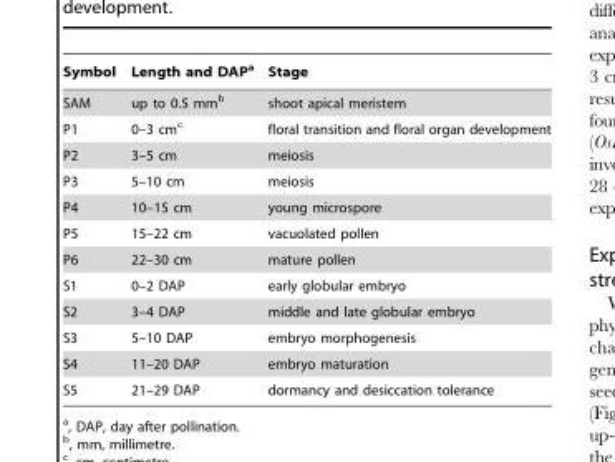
<table><thead><tr><td>Symbol</td><td>Length and DAP<sup>a</sup></td><td>Stage</td></tr></thead><tbody><tr><td>SAM</td><td>up to 0.5 mm<sup>b</sup></td><td>shoot apical meristem</td></tr><tr><td>P1</td><td>0–3 cm<sup>c</sup></td><td>floral transition and floral organ development</td></tr><tr><td>P2</td><td>3–5 cm</td><td>meiosis</td></tr><tr><td>P3</td><td>5–10 cm</td><td>meiosis</td></tr><tr><td>P4</td><td>10–15 cm</td><td>young microspore</td></tr><tr><td>P5</td><td>15–22 cm</td><td>vacuolated pollen</td></tr><tr><td>P6</td><td>22–30 cm</td><td>mature pollen</td></tr><tr><td>S1</td><td>0–2 DAP</td><td>early globular embryo</td></tr><tr><td>S2</td><td>3–4 DAP</td><td>middle and late globular embryo</td></tr><tr><td>S3</td><td>5–10 DAP</td><td>embryo morphogenesis</td></tr><tr><td>S4</td><td>11–20 DAP</td><td>embryo maturation</td></tr><tr><td>S5</td><td>21–29 DAP</td><td>dormancy and desiccation tolerance</td></tr></tbody></table>